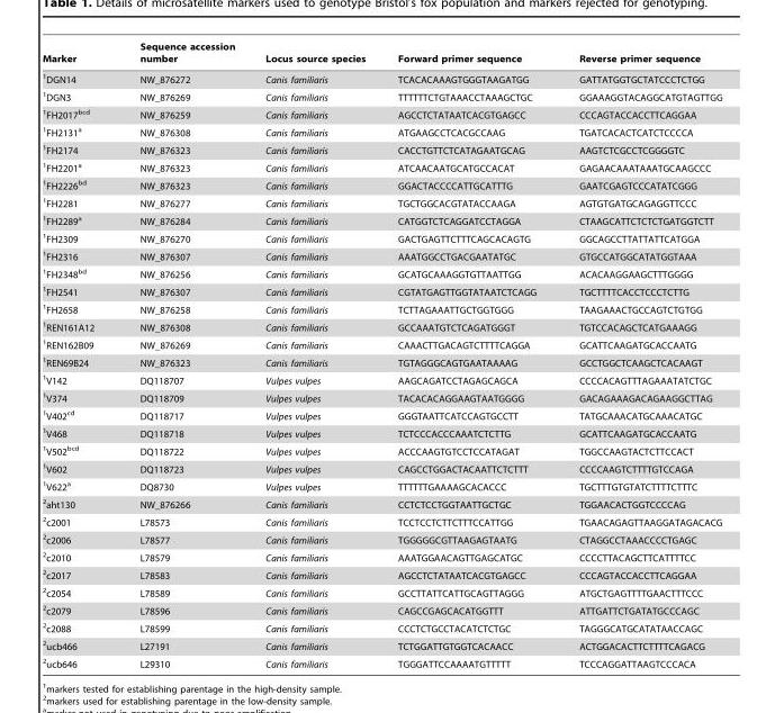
<table><thead><tr><td>Marker</td><td>Sequence accession number</td><td>Locus source species</td><td>Forward primer sequence</td><td>Reverse primer sequence</td></tr></thead><tbody><tr><td>1DGN14</td><td>NW_876272</td><td>Canis familiaris</td><td>TCACACAAAGTGGGTAAGATGG</td><td>GATTATGGTGCTATCCCTCTGG</td></tr><tr><td>1DGN3</td><td>NW_876269</td><td>Canis familiaris</td><td>TTTTTTCTGTAAACCTAAAGCTGC</td><td>GGAAAGGTACAGGCATGTAGTTGG</td></tr><tr><td>1FH2017<sup>bcd</sup></td><td>NW_876259</td><td>Canis familiaris</td><td>AGCCTCTATAATCACGTGAGCC</td><td>CCCAGTACCACCTTCAGGAA</td></tr><tr><td>1FH2131<sup>a</sup></td><td>NW_876308</td><td>Canis familiaris</td><td>ATGAAGCCTCACGCCAAG</td><td>TGATCACACTCATCTCCCCA</td></tr><tr><td>1FH2174</td><td>NW_876323</td><td>Canis familiaris</td><td>CACCTGTTCTCATAGAATGCAG</td><td>AAGTCTCGCCTCGGGGTC</td></tr><tr><td>1FH2201<sup>a</sup></td><td>NW_876323</td><td>Canis familiaris</td><td>ATCAACAATGCATGCCACAT</td><td>GAGAACAAATAAATGCAAGCCC</td></tr><tr><td>1FH2226<sup>bd</sup></td><td>NW_876323</td><td>Canis familiaris</td><td>GGACTACCCCATTGCATTTG</td><td>GAATCGAGTCCCATATCGGG</td></tr><tr><td>1FH2281</td><td>NW_876277</td><td>Canis familiaris</td><td>TGCTGGCACGTATACCAAGA</td><td>AGTGTGATGCAGAGGTTCCC</td></tr><tr><td>1FH2289<sup>a</sup></td><td>NW_876284</td><td>Canis familiaris</td><td>CATGGTCTCAGGATCCTAGGA</td><td>CTAAGCATTCTCTCTGATGGTCTT</td></tr><tr><td>1FH2309</td><td>NW_876270</td><td>Canis familiaris</td><td>GACTGAGTTCTTTCAGCACAGTG</td><td>GGCAGCCTTATTATTCATGGA</td></tr><tr><td>1FH2316</td><td>NW_876307</td><td>Canis familiaris</td><td>AAATGGCCTGACGAATATGC</td><td>GTGCCATGGCATATGGTAAA</td></tr><tr><td>1FH2348<sup>bd</sup></td><td>NW_876256</td><td>Canis familiaris</td><td>GCATGCAAAGGTGTTAATTGG</td><td>ACACAAGGAAGCTTTGGGG</td></tr><tr><td>1FH2541</td><td>NW_876307</td><td>Canis familiaris</td><td>CGTATGAGTTGGTATAATCTCAGG</td><td>TGCTTTTCACCTCCCTCTTG</td></tr><tr><td>1FH2658</td><td>NW_876258</td><td>Canis familiaris</td><td>TCTTAGAAATTGCTGGTGGG</td><td>TAAGAAACTGCCAGTCTGTGG</td></tr><tr><td>1REN161A12</td><td>NW_876308</td><td>Canis familiaris</td><td>GCCAAATGTCTCAGATGGGT</td><td>TGTCCACAGCTCATGAAAGG</td></tr><tr><td>1REN162B09</td><td>NW_876269</td><td>Canis familiaris</td><td>CAAACTTGACAGTCTTTTCAGGA</td><td>GCATTCAAGATGCACCAATG</td></tr><tr><td>1REN69B24</td><td>NW_876323</td><td>Canis familiaris</td><td>TGTAGGGCAGTGAATAAAAG</td><td>GCCTGGCTCAAGCTCACAAGT</td></tr><tr><td>1V142</td><td>DQ118707</td><td>Vulpes vulpes</td><td>AAGCAGATCCTAGAGCAGCA</td><td>CCCCACAGTTTAGAAATATCTGC</td></tr><tr><td>1V374</td><td>DQ118709</td><td>Vulpes vulpes</td><td>TACACACAGGAAGTAATGGGG</td><td>GACAGAAAGACAGAAGGCTTAG</td></tr><tr><td>1V402<sup>cd</sup></td><td>DQ118717</td><td>Vulpes vulpes</td><td>GGGTAATTCATCCAGTGCCTT</td><td>TATGCAAACATGCAAACATGC</td></tr><tr><td>1V468</td><td>DQ118718</td><td>Vulpes vulpes</td><td>TCTCCCACCCAAATCTCTTG</td><td>GCATTCAAGATGCACCAATG</td></tr><tr><td>1V502<sup>bcd</sup></td><td>DQ118722</td><td>Vulpes vulpes</td><td>ACCCAAGTGTCCTCCATAGAT</td><td>TGGCCAAGTACTCTTCCACT</td></tr><tr><td>1V602</td><td>DQ118723</td><td>Vulpes vulpes</td><td>CAGCCTGGACTACAATTCTCTTT</td><td>CCCCAAGTCTTTTGTCCAGA</td></tr><tr><td>1V622<sup>a</sup></td><td>DQ8730</td><td>Vulpes vulpes</td><td>TTTTTTGAAAAGCACACCC</td><td>TGCTTTGTGTATCTTTTCTTTC</td></tr><tr><td>2aht130</td><td>NW_876266</td><td>Canis familiaris</td><td>CCTCTCCTGGTAATTGCTGC</td><td>TGGAACACTGGTCCCCAG</td></tr><tr><td>2c2001</td><td>L78573</td><td>Canis familiaris</td><td>TCCTCCTCTTCTTTCCATTGG</td><td>TGAACAGAGTTAAGGATAGACACG</td></tr><tr><td>2c2006</td><td>L78577</td><td>Canis familiaris</td><td>TGGGGGCGTTAAGAGTAATG</td><td>CTAGGCCTAAACCCCTGAGC</td></tr><tr><td>2c2010</td><td>L78579</td><td>Canis familiaris</td><td>AAATGGAACAGTTGAGCATGC</td><td>CCCCTTACAGCTTCATTTTCC</td></tr><tr><td>2c2017</td><td>L78583</td><td>Canis familiaris</td><td>AGCCTCTATAATCACGTGAGCC</td><td>CCCAGTACCACCTTCAGGAA</td></tr><tr><td>2c2054</td><td>L78589</td><td>Canis familiaris</td><td>GCCTTATTCATTGCAGTTAGGG</td><td>ATGCTGAGTTTTGAACTTTCCC</td></tr><tr><td>2c2079</td><td>L78596</td><td>Canis familiaris</td><td>CAGCCGAGCACATGGTTT</td><td>ATTGATTCTGATATGCCCAGC</td></tr><tr><td>2c2088</td><td>L78599</td><td>Canis familiaris</td><td>CCCTCTGCCTACATCTCTGC</td><td>TAGGGCATGCATATAACCAGC</td></tr><tr><td>2ucb466</td><td>L27191</td><td>Canis familiaris</td><td>TCTGGATTGTGGTCACAACC</td><td>ACTGGACACTTCTTTTCAGACG</td></tr><tr><td>2ucb646</td><td>L29310</td><td>Canis familiaris</td><td>TGGGATTCCAAAATGTTTTT</td><td>TCCCAGGATTAAGTCCCACA</td></tr></tbody></table>